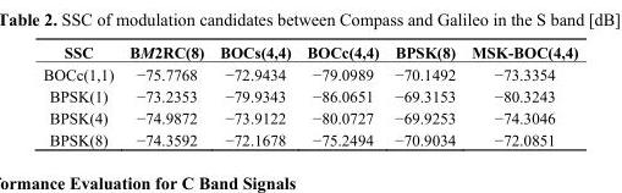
<table><thead><tr><td>SSC</td><td>BM2RC(8)</td><td>BOCs(4,4)</td><td>BOCc(4,4)</td><td>BPSK(8)</td><td>MSK-BOC(4,4)</td></tr></thead><tbody><tr><td>BOCc(1,1)</td><td>−75.7768</td><td>−72.9434</td><td>−79.0989</td><td>−70.1492</td><td>−73.3354</td></tr><tr><td>BPSK(1)</td><td>−73.2353</td><td>−79.9343</td><td>−86.0651</td><td>−69.3153</td><td>−80.3243</td></tr><tr><td>BPSK(4)</td><td>−74.9872</td><td>−73.9122</td><td>−80.0727</td><td>−69.9253</td><td>−74.3046</td></tr><tr><td>BPSK(8)</td><td>−74.3592</td><td>−72.1678</td><td>−75.2494</td><td>−70.9034</td><td>−72.0851</td></tr></tbody></table>